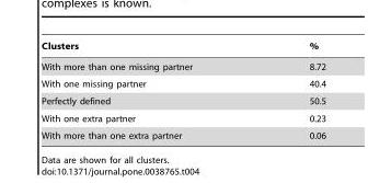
<table><thead><tr><td>Clusters</td><td>%</td></tr></thead><tbody><tr><td>With more than one missing partner</td><td>8.72</td></tr><tr><td>With one missing partner</td><td>40.4</td></tr><tr><td>Perfectly defined</td><td>50.5</td></tr><tr><td>With one extra partner</td><td>0.23</td></tr><tr><td>With more than one extra partner</td><td>0.06</td></tr></tbody></table>